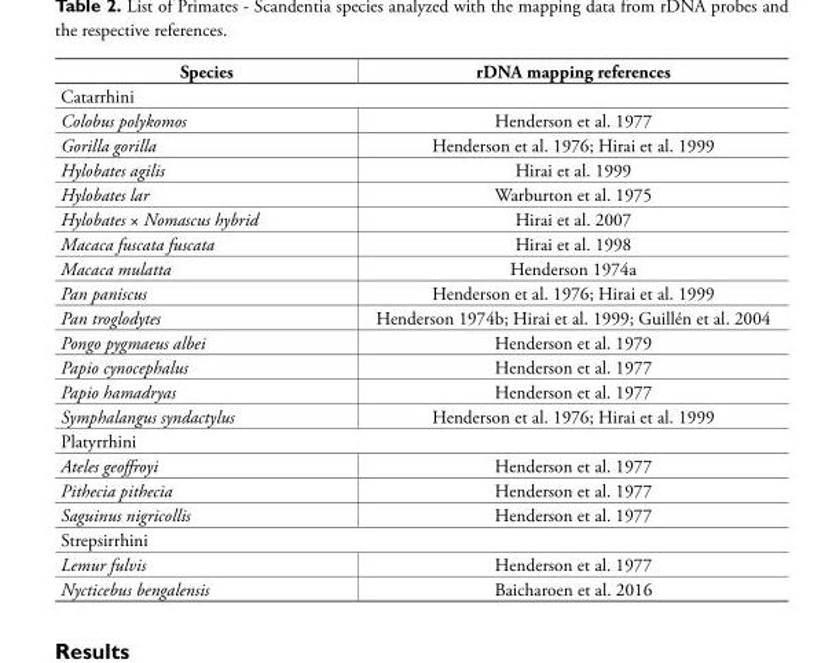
<table><thead><tr><td>Species</td><td>rDNA mapping references</td></tr></thead><tbody><tr><td colspan="2">Catarrhini</td></tr><tr><td>Colobus polykomos</td><td>Henderson et al. 1977</td></tr><tr><td>Gorilla gorilla</td><td>Henderson et al. 1976; Hirai et al. 1999</td></tr><tr><td>Hylobates agilis</td><td>Hirai et al. 1999</td></tr><tr><td>Hylobates lar</td><td>Warburton et al. 1975</td></tr><tr><td>Hylobates × Nomascus hybrid</td><td>Hirai et al. 2007</td></tr><tr><td>Macaca fuscata fuscata</td><td>Hirai et al. 1998</td></tr><tr><td>Macaca mulatta</td><td>Henderson 1974a</td></tr><tr><td>Pan paniscus</td><td>Henderson et al. 1976; Hirai et al. 1999</td></tr><tr><td>Pan troglodytes</td><td>Henderson 1974b; Hirai et al. 1999; Guillén et al. 2004</td></tr><tr><td>Pongo pygmaeus albei</td><td>Henderson et al. 1979</td></tr><tr><td>Papio cynocephalus</td><td>Henderson et al. 1977</td></tr><tr><td>Papio hamadryas</td><td>Henderson et al. 1977</td></tr><tr><td>Symphalangus syndactylus</td><td>Henderson et al. 1976; Hirai et al. 1999</td></tr><tr><td colspan="2">Platyrrhini</td></tr><tr><td>Ateles geoffroyi</td><td>Henderson et al. 1977</td></tr><tr><td>Pithecia pithecia</td><td>Henderson et al. 1977</td></tr><tr><td>Saguinus nigricollis</td><td>Henderson et al. 1977</td></tr><tr><td colspan="2">Strepsirrhini</td></tr><tr><td>Lemur fulvis</td><td>Henderson et al. 1977</td></tr><tr><td>Nycticebus bengalensis</td><td>Baicharoen et al. 2016</td></tr></tbody></table>